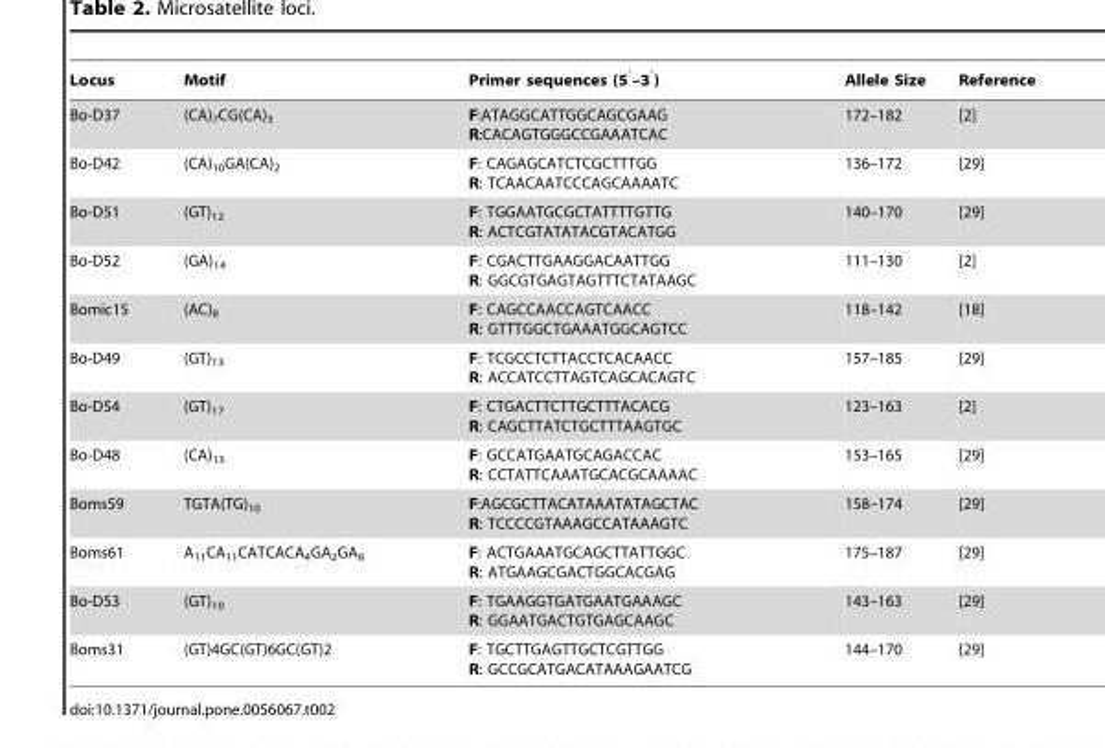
<table><thead><tr><td>Locus</td><td>Motif</td><td>Primer sequences (5<sup>′</sup>–3<sup>′</sup>)</td><td>Allele Size</td><td>Reference</td></tr></thead><tbody><tr><td>Bo-D37</td><td>(CA)<sub>7</sub>CG(CA)<sub>3</sub></td><td>F:ATAGGCATTGGCAGCGAAG R:CACAGTGGGCCGAAATCAC</td><td>172–182</td><td>[2]</td></tr><tr><td>Bo-D42</td><td>(CA)<sub>10</sub>GA(CA)<sub>2</sub></td><td>F: CAGAGCATCTCGCTTTGG R: TCAACAATCCCAGCAAAATC</td><td>136–172</td><td>[29]</td></tr><tr><td>Bo-D51</td><td>(GT)<sub>12</sub></td><td>F: TGGAATGCGCTATTTTGTTG R: ACTCGTATATACGTACATGG</td><td>140–170</td><td>[29]</td></tr><tr><td>Bo-D52</td><td>(GA)<sub>14</sub></td><td>F: CGACTTGAAGGACAATTGG R: GGCGTGAGTAGTTTCTATAAGC</td><td>111–130</td><td>[2]</td></tr><tr><td>Bomic15</td><td>(AC)<sub>8</sub></td><td>F: CAGCCAACCAGTCAACC R: GTTTGGCTGAAATGGCAGTCC</td><td>118–142</td><td>[18]</td></tr><tr><td>Bo-D49</td><td>(GT)<sub>13</sub></td><td>F: TCGCCTCTTACCTCACAACC R: ACCATCCTTAGTCAGCACAGTC</td><td>157–185</td><td>[29]</td></tr><tr><td>Bo-D54</td><td>(GT)<sub>17</sub></td><td>F: CTGACTTCTTGCTTTACACG R: CAGCTTATCTGCTTTAAGTGC</td><td>123–163</td><td>[2]</td></tr><tr><td>Bo-D48</td><td>(CA)<sub>13</sub></td><td>F: GCCATGAATGCAGACCAC R: CCTATTCAAATGCACGCAAAAC</td><td>153–165</td><td>[29]</td></tr><tr><td>Boms59</td><td>TGTA(TG)<sub>10</sub></td><td>F:AGCGCTTACATAAATATAGCTAC R: TCCCCGTAAAGCCATAAAGTC</td><td>158–174</td><td>[29]</td></tr><tr><td>Boms61</td><td>A<sub>11</sub>CA<sub>11</sub>CATCACA<sub>4</sub>GA<sub>2</sub>GA<sub>8</sub></td><td>F: ACTGAAATGCAGCTTATTGGC R: ATGAAGCGACTGGCACGAG</td><td>175–187</td><td>[29]</td></tr><tr><td>Bo-D53</td><td>(GT)<sub>10</sub></td><td>F: TGAAGGTGATGAATGAAAGC R: GGAATGACTGTGAGCAAGC</td><td>143–163</td><td>[29]</td></tr><tr><td>Boms31</td><td>(GT)4GC(GT)6GC(GT)2</td><td>F: TGCTTGAGTTGCTCGTTGG R: GCCGCATGACATAAAGAATCG</td><td>144–170</td><td>[29]</td></tr></tbody></table>